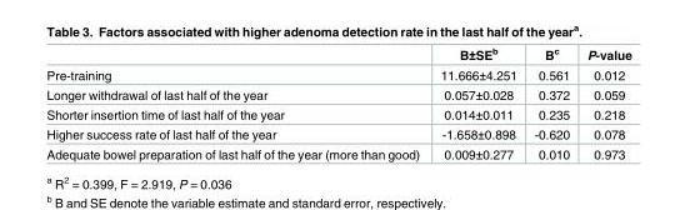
<table><thead><tr><td></td><td>B±SE<sup>b</sup></td><td>B<sup>c</sup></td><td>P-value</td></tr></thead><tbody><tr><td>Pre-training</td><td>11.666±4.251</td><td>0.561</td><td>0.012</td></tr><tr><td>Longer withdrawal of last half of the year</td><td>0.057±0.028</td><td>0.372</td><td>0.059</td></tr><tr><td>Shorter insertion time of last half of the year</td><td>0.014±0.011</td><td>0.235</td><td>0.218</td></tr><tr><td>Higher success rate of last half of the year</td><td>-1.658±0.898</td><td>-0.620</td><td>0.078</td></tr><tr><td>Adequate bowel preparation of last half of the year (more than good)</td><td>0.009±0.277</td><td>0.010</td><td>0.973</td></tr></tbody></table>